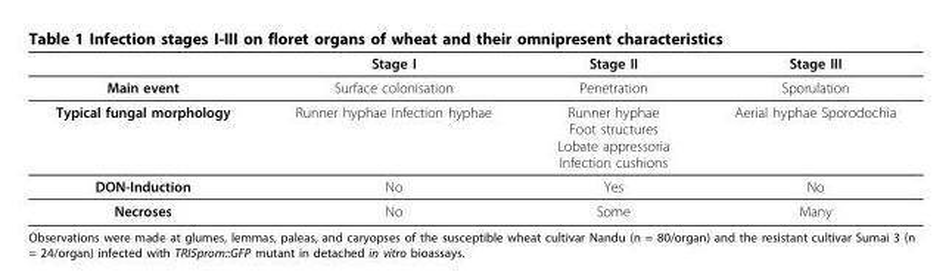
<table><thead><tr><td></td><td>Stage I</td><td>Stage II</td><td>Stage III</td></tr></thead><tbody><tr><td>Main event</td><td>Surface colonisation</td><td>Penetration</td><td>Sporulation</td></tr><tr><td>Typical fungal morphology</td><td>Runner hyphae Infection hyphae</td><td>Runner hyphae Foot structures Lobate appressoria Infection cushions</td><td>Aerial hyphae Sporodochia</td></tr><tr><td>DON-Induction</td><td>No</td><td>Yes</td><td>No</td></tr><tr><td>Necroses</td><td>No</td><td>Some</td><td>Many</td></tr></tbody></table>